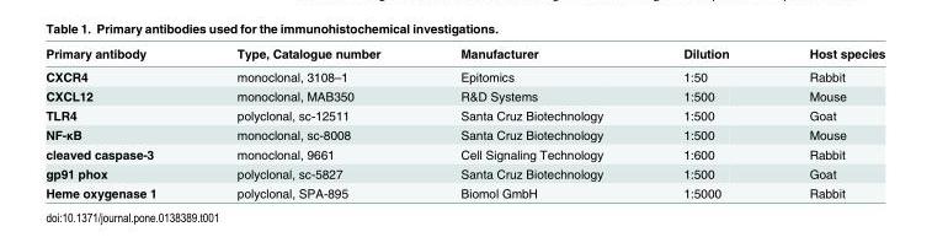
<table><thead><tr><td>Primary antibody</td><td>Type, Catalogue number</td><td>Manufacturer</td><td>Dilution</td><td>Host species</td></tr></thead><tbody><tr><td>CXCR4</td><td>monoclonal, 3108–1</td><td>Epitomics</td><td>1:50</td><td>Rabbit</td></tr><tr><td>CXCL12</td><td>monoclonal, MAB350</td><td>R&amp;D Systems</td><td>1:500</td><td>Mouse</td></tr><tr><td>TLR4</td><td>polyclonal, sc-12511</td><td>Santa Cruz Biotechnology</td><td>1:500</td><td>Goat</td></tr><tr><td>NF-κB</td><td>monoclonal, sc-8008</td><td>Santa Cruz Biotechnology</td><td>1:500</td><td>Mouse</td></tr><tr><td>cleaved caspase-3</td><td>monoclonal, 9661</td><td>Cell Signaling Technology</td><td>1:600</td><td>Rabbit</td></tr><tr><td>gp91 phox</td><td>polyclonal, sc-5827</td><td>Santa Cruz Biotechnology</td><td>1:500</td><td>Goat</td></tr><tr><td>Heme oxygenase 1</td><td>polyclonal, SPA-895</td><td>Biomol GmbH</td><td>1:5000</td><td>Rabbit</td></tr></tbody></table>